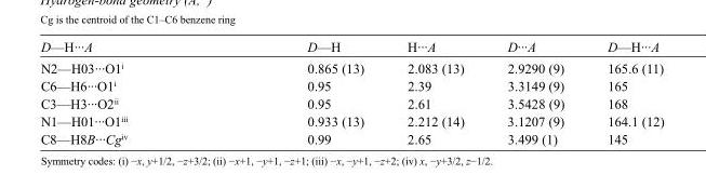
<table><tbody><tr><td>D—H···A</td><td>D—H</td><td>H···A</td><td>D···A</td><td>D—H···A</td></tr><tr><td>N2—H03···O1<sup>i</sup></td><td>0.865 (13)</td><td>2.083 (13)</td><td>2.9290 (9)</td><td>165.6 (11)</td></tr><tr><td>C6—H6···O1<sup>i</sup></td><td>0.95</td><td>2.39</td><td>3.3149 (9)</td><td>165</td></tr><tr><td>C3—H3···O2<sup>ii</sup></td><td>0.95</td><td>2.61</td><td>3.5428 (9)</td><td>168</td></tr><tr><td>N1—H01···O1<sup>iii</sup></td><td>0.933 (13)</td><td>2.212 (14)</td><td>3.1207 (9)</td><td>164.1 (12)</td></tr><tr><td>C8—H8B···Cg<sup>iv</sup></td><td>0.99</td><td>2.65</td><td>3.499 (1)</td><td>145</td></tr></tbody></table>